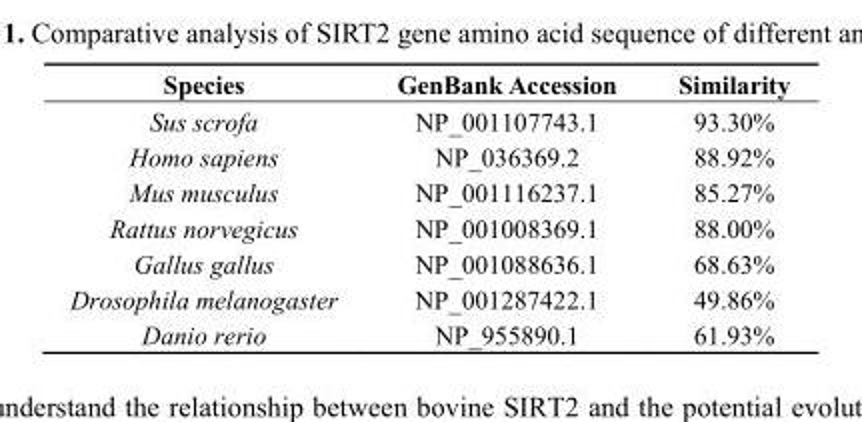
<table><thead><tr><td>Species</td><td>GenBank Accession</td><td>Similarity</td></tr></thead><tbody><tr><td>Sus scrofa</td><td>NP_001107743.1</td><td>93.30%</td></tr><tr><td>Homo sapiens</td><td>NP_036369.2</td><td>88.92%</td></tr><tr><td>Mus musculus</td><td>NP_001116237.1</td><td>85.27%</td></tr><tr><td>Rattus norvegicus</td><td>NP_001008369.1</td><td>88.00%</td></tr><tr><td>Gallus gallus</td><td>NP_001088636.1</td><td>68.63%</td></tr><tr><td>Drosophila melanogaster</td><td>NP_001287422.1</td><td>49.86%</td></tr><tr><td>Danio rerio</td><td>NP_955890.1</td><td>61.93%</td></tr></tbody></table>